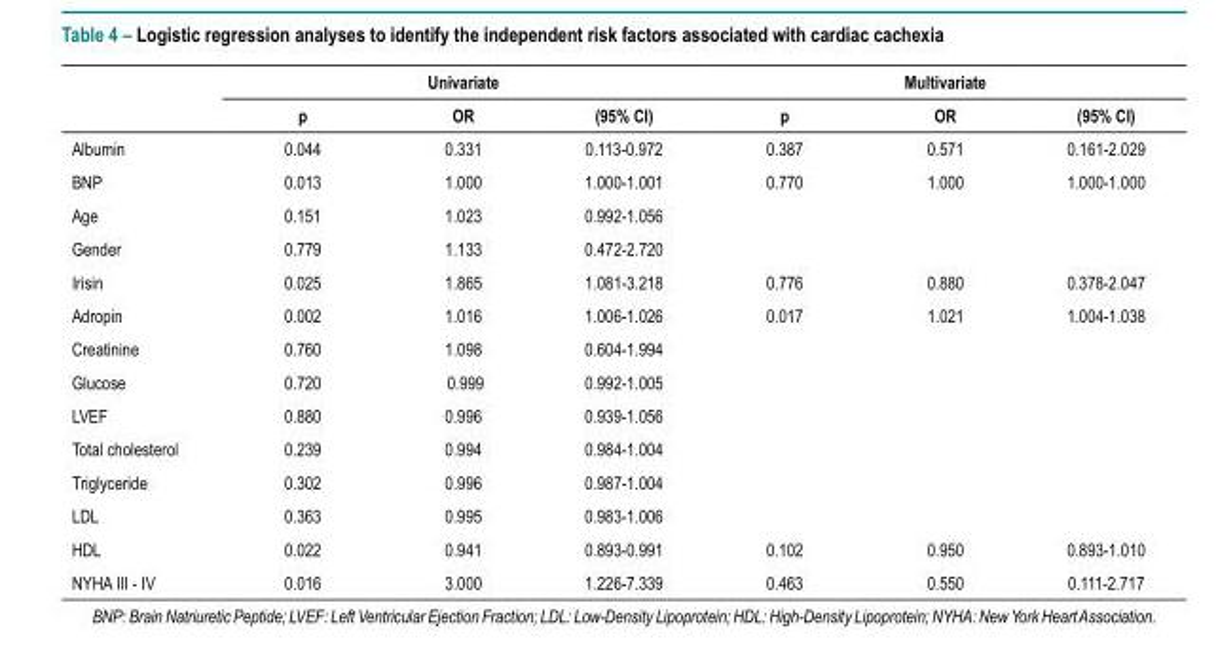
<table><thead><tr><td rowspan="2"></td><td colspan="3">Univariate</td><td colspan="3">Multivariate</td></tr><tr><td>p</td><td>OR</td><td>(95% CI)</td><td>p</td><td>OR</td><td>(95% CI)</td></tr></thead><tbody><tr><td>Albumin</td><td>0.044</td><td>0.331</td><td>0.113-0.972</td><td>0.387</td><td>0.571</td><td>0.161-2.029</td></tr><tr><td>BNP</td><td>0.013</td><td>1.000</td><td>1.000-1.001</td><td>0.770</td><td>1.000</td><td>1.000-1.000</td></tr><tr><td>Age</td><td>0.151</td><td>1.023</td><td>0.992-1.056</td><td></td><td></td><td></td></tr><tr><td>Gender</td><td>0.779</td><td>1.133</td><td>0.472-2.720</td><td></td><td></td><td></td></tr><tr><td>Irisin</td><td>0.025</td><td>1.865</td><td>1.081-3.218</td><td>0.776</td><td>0.880</td><td>0.378-2.047</td></tr><tr><td>Adropin</td><td>0.002</td><td>1.016</td><td>1.006-1.026</td><td>0.017</td><td>1.021</td><td>1.004-1.038</td></tr><tr><td>Creatinine</td><td>0.760</td><td>1.098</td><td>0.604-1.994</td><td></td><td></td><td></td></tr><tr><td>Glucose</td><td>0.720</td><td>0.999</td><td>0.992-1.005</td><td></td><td></td><td></td></tr><tr><td>LVEF</td><td>0.880</td><td>0.996</td><td>0.939-1.056</td><td></td><td></td><td></td></tr><tr><td>Total cholesterol</td><td>0.239</td><td>0.994</td><td>0.984-1.004</td><td></td><td></td><td></td></tr><tr><td>Triglyceride</td><td>0.302</td><td>0.996</td><td>0.987-1.004</td><td></td><td></td><td></td></tr><tr><td>LDL</td><td>0.363</td><td>0.995</td><td>0.983-1.006</td><td></td><td></td><td></td></tr><tr><td>HDL</td><td>0.022</td><td>0.941</td><td>0.893-0.991</td><td>0.102</td><td>0.950</td><td>0.893-1.010</td></tr><tr><td>NYHA III - IV</td><td>0.016</td><td>3.000</td><td>1.226-7.339</td><td>0.463</td><td>0.550</td><td>0.111-2.717</td></tr></tbody></table>